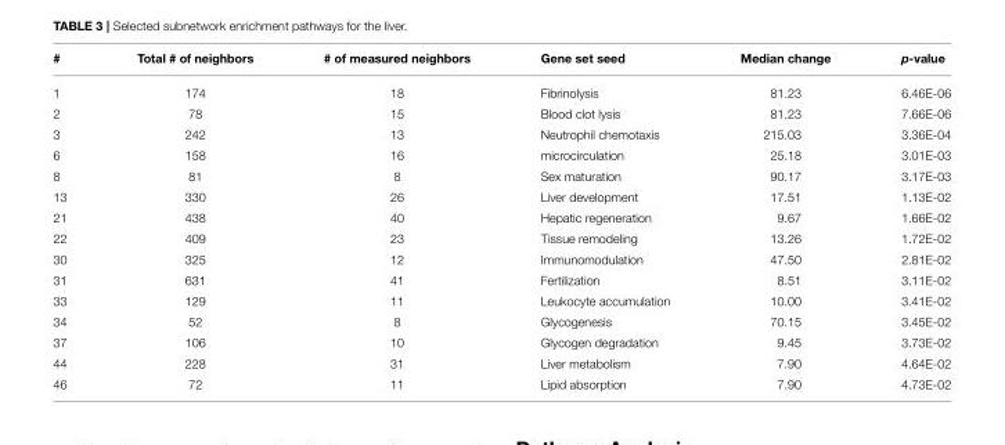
<table><thead><tr><td>#</td><td>Total # of neighbors</td><td># of measured neighbors</td><td>Gene set seed</td><td>Median change</td><td>p-value</td></tr></thead><tbody><tr><td>1</td><td>174</td><td>18</td><td>Fibrinolysis</td><td>81.23</td><td>6.46E-06</td></tr><tr><td>2</td><td>78</td><td>15</td><td>Blood clot lysis</td><td>81.23</td><td>7.66E-06</td></tr><tr><td>3</td><td>242</td><td>13</td><td>Neutrophil chemotaxis</td><td>215.03</td><td>3.36E-04</td></tr><tr><td>6</td><td>158</td><td>16</td><td>microcirculation</td><td>25.18</td><td>3.01E-03</td></tr><tr><td>8</td><td>81</td><td>8</td><td>Sex maturation</td><td>90.17</td><td>3.17E-03</td></tr><tr><td>13</td><td>330</td><td>26</td><td>Liver development</td><td>17.51</td><td>1.13E-02</td></tr><tr><td>21</td><td>438</td><td>40</td><td>Hepatic regeneration</td><td>9.67</td><td>1.66E-02</td></tr><tr><td>22</td><td>409</td><td>23</td><td>Tissue remodeling</td><td>13.26</td><td>1.72E-02</td></tr><tr><td>30</td><td>325</td><td>12</td><td>Immunomodulation</td><td>47.50</td><td>2.81E-02</td></tr><tr><td>31</td><td>631</td><td>41</td><td>Fertilization</td><td>8.51</td><td>3.11E-02</td></tr><tr><td>33</td><td>129</td><td>11</td><td>Leukocyte accumulation</td><td>10.00</td><td>3.41E-02</td></tr><tr><td>34</td><td>52</td><td>8</td><td>Glycogenesis</td><td>70.15</td><td>3.45E-02</td></tr><tr><td>37</td><td>106</td><td>10</td><td>Glycogen degradation</td><td>9.45</td><td>3.73E-02</td></tr><tr><td>44</td><td>228</td><td>31</td><td>Liver metabolism</td><td>7.90</td><td>4.64E-02</td></tr><tr><td>46</td><td>72</td><td>11</td><td>Lipid absorption</td><td>7.90</td><td>4.73E-02</td></tr></tbody></table>